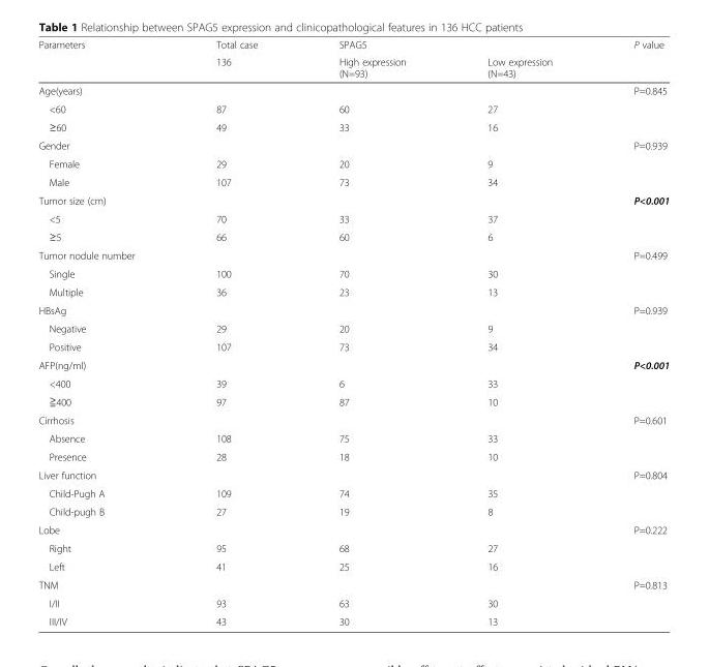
<table><thead><tr><td rowspan="2">Parameters</td><td rowspan="2">Total case 136</td><td rowspan="2">SPAG5 High expression (N=93)</td><td rowspan="2">Low expression (N=43)</td><td rowspan="2">P value</td></tr><tr></tr></thead><tbody><tr><td>Age(years)</td><td></td><td></td><td></td><td>P=0.845</td></tr><tr><td>&lt;60</td><td>87</td><td>60</td><td>27</td><td></td></tr><tr><td>≥60</td><td>49</td><td>33</td><td>16</td><td></td></tr><tr><td>Gender</td><td></td><td></td><td></td><td>P=0.939</td></tr><tr><td>Female</td><td>29</td><td>20</td><td>9</td><td></td></tr><tr><td>Male</td><td>107</td><td>73</td><td>34</td><td></td></tr><tr><td>Tumor size (cm)</td><td></td><td></td><td></td><td>P&lt;0.001</td></tr><tr><td>&lt;5</td><td>70</td><td>33</td><td>37</td><td></td></tr><tr><td>≥5</td><td>66</td><td>60</td><td>6</td><td></td></tr><tr><td>Tumor nodule number</td><td></td><td></td><td></td><td>P=0.499</td></tr><tr><td>Single</td><td>100</td><td>70</td><td>30</td><td></td></tr><tr><td>Multiple</td><td>36</td><td>23</td><td>13</td><td></td></tr><tr><td>HBsAg</td><td></td><td></td><td></td><td>P=0.939</td></tr><tr><td>Negative</td><td>29</td><td>20</td><td>9</td><td></td></tr><tr><td>Positive</td><td>107</td><td>73</td><td>34</td><td></td></tr><tr><td>AFP(ng/ml)</td><td></td><td></td><td></td><td>P&lt;0.001</td></tr><tr><td>&lt;400</td><td>39</td><td>6</td><td>33</td><td></td></tr><tr><td>≧400</td><td>97</td><td>87</td><td>10</td><td></td></tr><tr><td>Cirrhosis</td><td></td><td></td><td></td><td>P=0.601</td></tr><tr><td>Absence</td><td>108</td><td>75</td><td>33</td><td></td></tr><tr><td>Presence</td><td>28</td><td>18</td><td>10</td><td></td></tr><tr><td>Liver function</td><td></td><td></td><td></td><td>P=0.804</td></tr><tr><td>Child-Pugh A</td><td>109</td><td>74</td><td>35</td><td></td></tr><tr><td>Child-pugh B</td><td>27</td><td>19</td><td>8</td><td></td></tr><tr><td>Lobe</td><td></td><td></td><td></td><td>P=0.222</td></tr><tr><td>Right</td><td>95</td><td>68</td><td>27</td><td></td></tr><tr><td>Left</td><td>41</td><td>25</td><td>16</td><td></td></tr><tr><td>TNM</td><td></td><td></td><td></td><td>P=0.813</td></tr><tr><td>I/II</td><td>93</td><td>63</td><td>30</td><td></td></tr><tr><td>III/IV</td><td>43</td><td>30</td><td>13</td><td></td></tr></tbody></table>